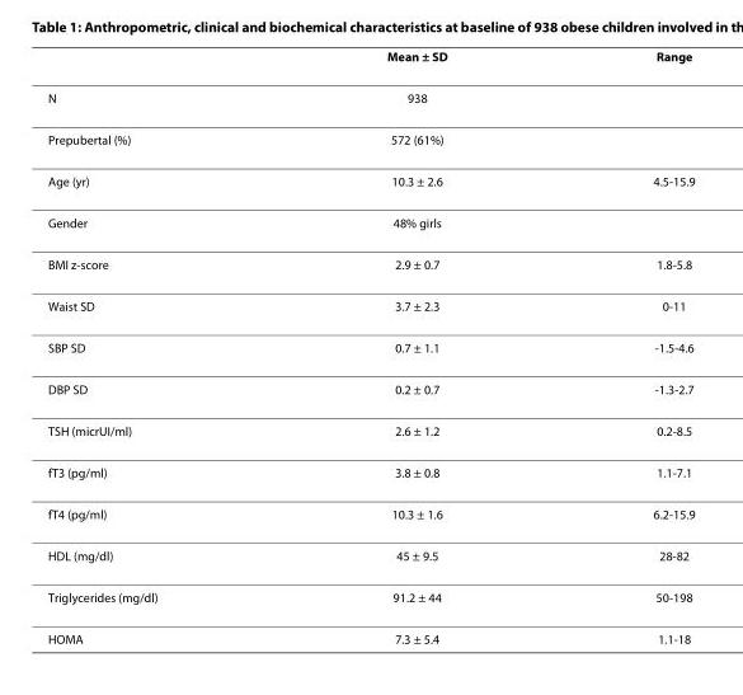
<table><thead><tr><td></td><td>Mean ± SD</td><td>Range</td></tr></thead><tbody><tr><td>N</td><td>938</td><td></td></tr><tr><td>Prepubertal (%)</td><td>572 (61%)</td><td></td></tr><tr><td>Age (yr)</td><td>10.3 ± 2.6</td><td>4.5-15.9</td></tr><tr><td>Gender</td><td>48% girls</td><td></td></tr><tr><td>BMI z-score</td><td>2.9 ± 0.7</td><td>1.8-5.8</td></tr><tr><td>Waist SD</td><td>3.7 ± 2.3</td><td>0-11</td></tr><tr><td>SBP SD</td><td>0.7 ± 1.1</td><td>-1.5-4.6</td></tr><tr><td>DBP SD</td><td>0.2 ± 0.7</td><td>-1.3-2.7</td></tr><tr><td>TSH (micrUI/ml)</td><td>2.6 ± 1.2</td><td>0.2-8.5</td></tr><tr><td>fT3 (pg/ml)</td><td>3.8 ± 0.8</td><td>1.1-7.1</td></tr><tr><td>fT4 (pg/ml)</td><td>10.3 ± 1.6</td><td>6.2-15.9</td></tr><tr><td>HDL (mg/dl)</td><td>45 ± 9.5</td><td>28-82</td></tr><tr><td>Triglycerides (mg/dl)</td><td>91.2 ± 44</td><td>50-198</td></tr><tr><td>HOMA</td><td>7.3 ± 5.4</td><td>1.1-18</td></tr></tbody></table>